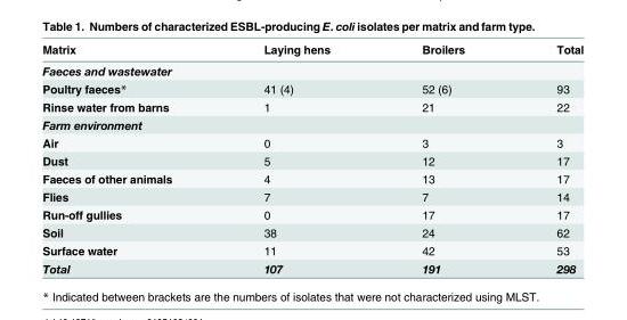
<table><thead><tr><td>Matrix</td><td>Laying hens</td><td>Broilers</td><td>Total</td></tr></thead><tbody><tr><td colspan="4">Faeces and wastewater</td></tr><tr><td>Poultry faeces*</td><td>41 (4)</td><td>52 (6)</td><td>93</td></tr><tr><td>Rinse water from barns</td><td>1</td><td>21</td><td>22</td></tr><tr><td colspan="4">Farm environment</td></tr><tr><td>Air</td><td>0</td><td>3</td><td>3</td></tr><tr><td>Dust</td><td>5</td><td>12</td><td>17</td></tr><tr><td>Faeces of other animals</td><td>4</td><td>13</td><td>17</td></tr><tr><td>Flies</td><td>7</td><td>7</td><td>14</td></tr><tr><td>Run-off gullies</td><td>0</td><td>17</td><td>17</td></tr><tr><td>Soil</td><td>38</td><td>24</td><td>62</td></tr><tr><td>Surface water</td><td>11</td><td>42</td><td>53</td></tr><tr><td>Total</td><td>107</td><td>191</td><td>298</td></tr></tbody></table>